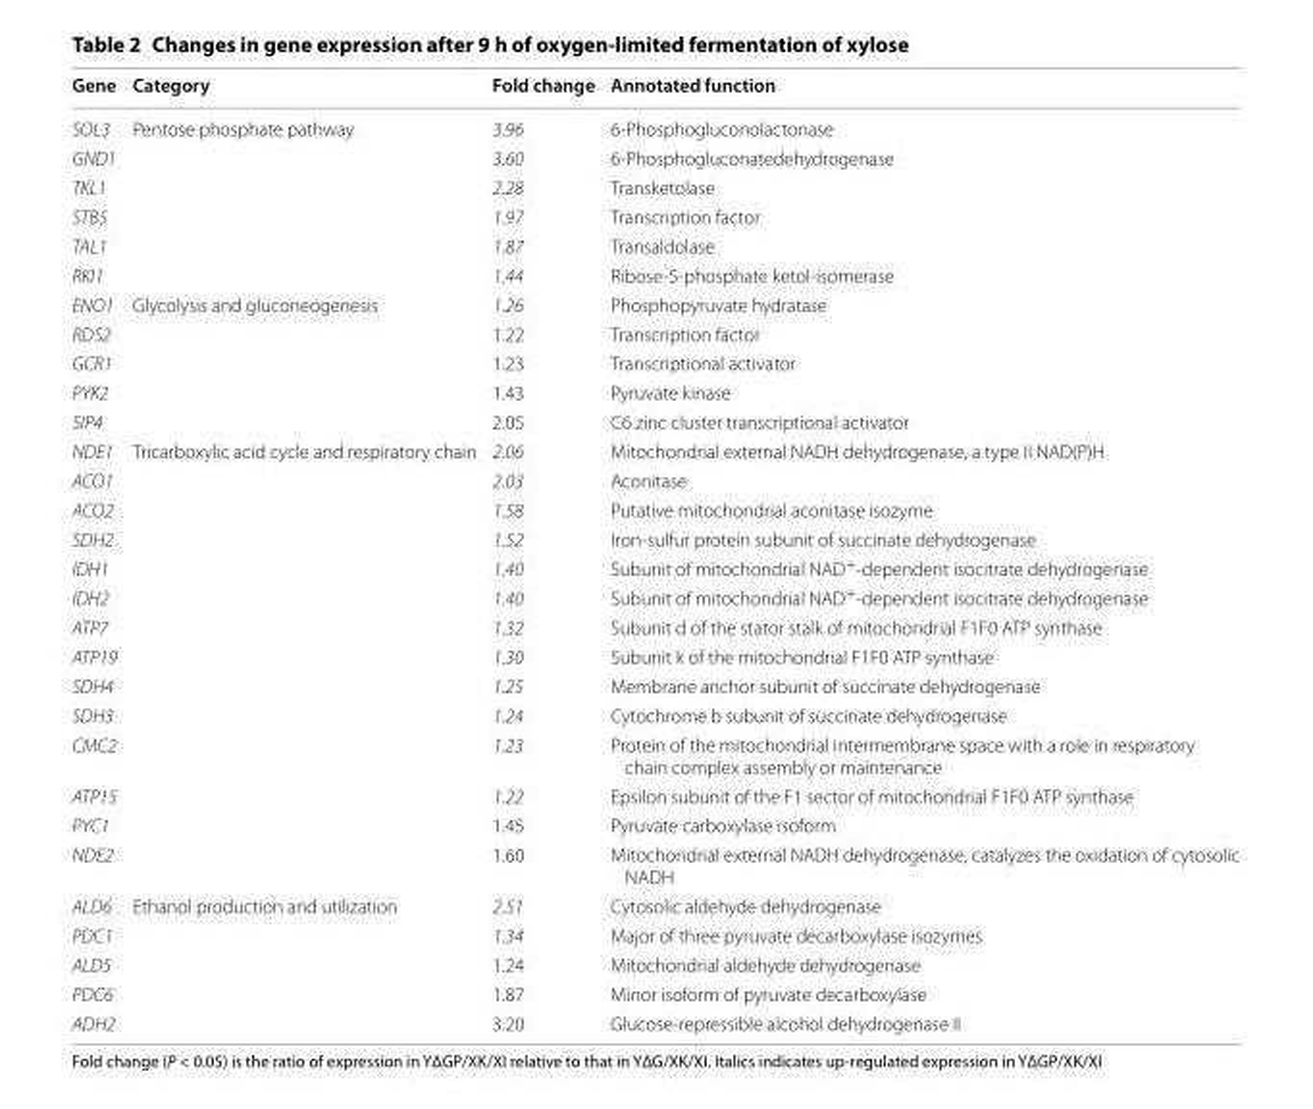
<table><thead><tr><td>Gene</td><td>Category</td><td>Fold change</td><td>Annotated function</td></tr></thead><tbody><tr><td>SOL3</td><td rowspan="6">Pentose phosphate pathway</td><td>3.96</td><td>6‑Phosphogluconolactonase</td></tr><tr><td>GND1</td><td>3.60</td><td>6‑Phosphogluconatedehydrogenase</td></tr><tr><td>TKL1</td><td>2.28</td><td>Transketolase</td></tr><tr><td>STB5</td><td>1.97</td><td>Transcription factor</td></tr><tr><td>TAL1</td><td>1.87</td><td>Transaldolase</td></tr><tr><td>RKI1</td><td>1.44</td><td>Ribose‑5‑phosphate ketol‑isomerase</td></tr><tr><td>ENO1</td><td rowspan="5">Glycolysis and gluconeogenesis</td><td>1.26</td><td>Phosphopyruvate hydratase</td></tr><tr><td>RDS2</td><td>1.22</td><td>Transcription factor</td></tr><tr><td>GCR1</td><td>1.23</td><td>Transcriptional activator</td></tr><tr><td>PYK2</td><td>1.43</td><td>Pyruvate kinase</td></tr><tr><td>SIP4</td><td>2.05</td><td>C6 zinc cluster transcriptional activator</td></tr><tr><td>NDE1</td><td rowspan="14">Tricarboxylic acid cycle and respiratory chain</td><td>2.06</td><td>Mitochondrial external NADH dehydrogenase, a type II NAD(P)H</td></tr><tr><td>ACO1</td><td>2.03</td><td>Aconitase</td></tr><tr><td>ACO2</td><td>1.58</td><td>Putative mitochondrial aconitase isozyme</td></tr><tr><td>SDH2</td><td>1.52</td><td>Iron‑sulfur protein subunit of succinate dehydrogenase</td></tr><tr><td>IDH1</td><td>1.40</td><td>Subunit of mitochondrial NAD<sup>+</sup>‑dependent isocitrate dehydrogenase</td></tr><tr><td>IDH2</td><td>1.40</td><td>Subunit of mitochondrial NAD<sup>+</sup>‑dependent isocitrate dehydrogenase</td></tr><tr><td>ATP7</td><td>1.32</td><td>Subunit d of the stator stalk of mitochondrial F1F0 ATP synthase</td></tr><tr><td>ATP19</td><td>1.30</td><td>Subunit k of the mitochondrial F1F0 ATP synthase</td></tr><tr><td>SDH4</td><td>1.25</td><td>Membrane anchor subunit of succinate dehydrogenase</td></tr><tr><td>SDH3</td><td>1.24</td><td>Cytochrome b subunit of succinate dehydrogenase</td></tr><tr><td>CMC2</td><td>1.23</td><td>Protein of the mitochondrial intermembrane space with a role in respiratory chain complex assembly or maintenance</td></tr><tr><td>ATP15</td><td>1.22</td><td>Epsilon subunit of the F1 sector of mitochondrial F1F0 ATP synthase</td></tr><tr><td>PYC1</td><td>1.45</td><td>Pyruvate carboxylase isoform</td></tr><tr><td>NDE2</td><td>1.60</td><td>Mitochondrial external NADH dehydrogenase, catalyzes the oxidation of cytosolic NADH</td></tr><tr><td>ALD6</td><td rowspan="5">Ethanol production and utilization</td><td>2.51</td><td>Cytosolic aldehyde dehydrogenase</td></tr><tr><td>PDC1</td><td>1.34</td><td>Major of three pyruvate decarboxylase isozymes</td></tr><tr><td>ALD5</td><td>1.24</td><td>Mitochondrial aldehyde dehydrogenase</td></tr><tr><td>PDC6</td><td>1.87</td><td>Minor isoform of pyruvate decarboxylase</td></tr><tr><td>ADH2</td><td>3.20</td><td>Glucose‑repressible alcohol dehydrogenase II</td></tr></tbody></table>